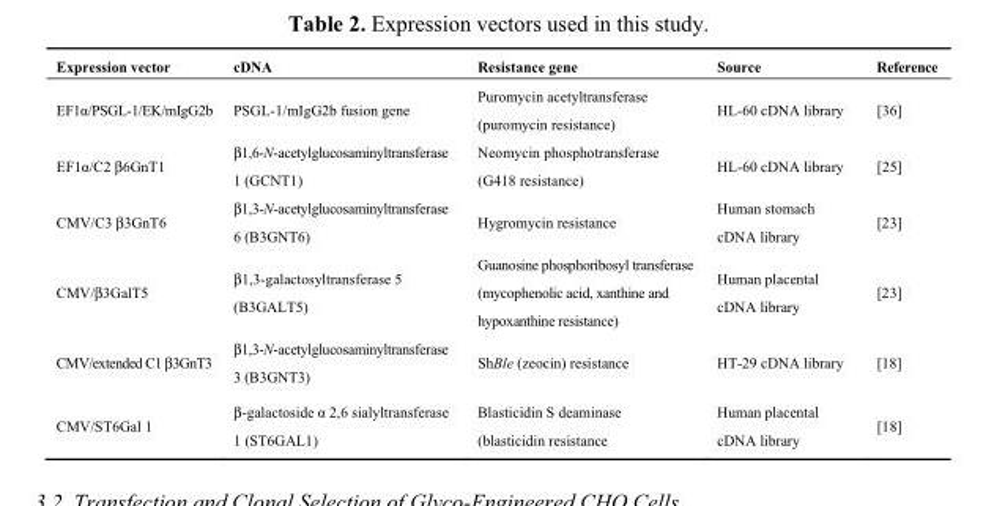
<table><thead><tr><td>Expression vector</td><td>cDNA</td><td>Resistance gene</td><td>Source</td><td>Reference</td></tr></thead><tbody><tr><td>EF1α/PSGL-1/EK/mIgG2b</td><td>PSGL-1/mIgG2b fusion gene</td><td>Puromycin acetyltransferase (puromycin resistance)</td><td>HL-60 cDNA library</td><td>[36]</td></tr><tr><td>EF1α/C2 β6GnT1</td><td>β1,6-N-acetylglucosaminyltransferase 1 (GCNT1)</td><td>Neomycin phosphotransferase (G418 resistance)</td><td>HL-60 cDNA library</td><td>[25]</td></tr><tr><td>CMV/C3 β3GnT6</td><td>β1,3-N-acetylglucosaminyltransferase 6 (B3GNT6)</td><td>Hygromycin resistance</td><td>Human stomach cDNA library</td><td>[23]</td></tr><tr><td>CMV/β3GalT5</td><td>β1,3-galactosyltransferase 5 (B3GALT5)</td><td>Guanosine phosphoribosyl transferase (mycophenolic acid, xanthine and hypoxanthine resistance)</td><td>Human placental cDNA library</td><td>[23]</td></tr><tr><td>CMV/extended C1 β3GnT3</td><td>β1,3-N-acetylglucosaminyltransferase 3 (B3GNT3)</td><td>ShBle (zeocin) resistance</td><td>HT-29 cDNA library</td><td>[18]</td></tr><tr><td>CMV/ST6Gal 1</td><td>β-galactoside α 2,6 sialyltransferase 1 (ST6GAL1)</td><td>Blasticidin S deaminase (blasticidin resistance</td><td>Human placental cDNA library</td><td>[18]</td></tr></tbody></table>